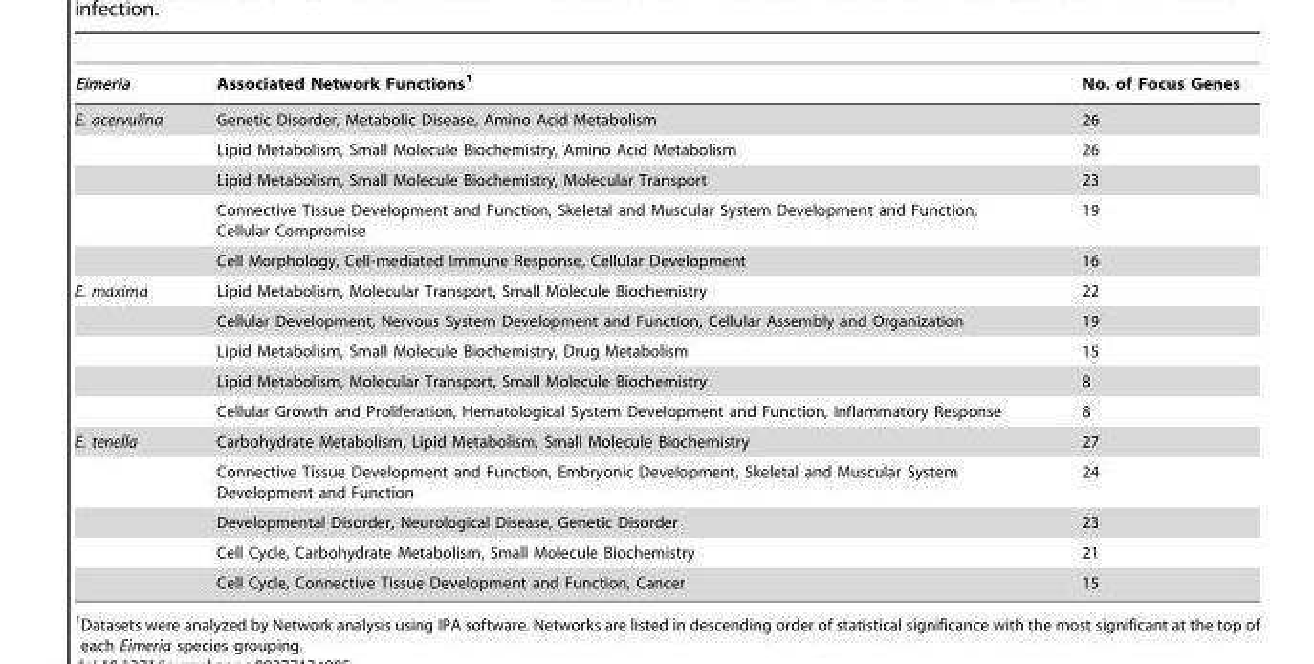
<table><thead><tr><td>Eimeria</td><td>Associated Network Functions<sup>1</sup></td><td>No. of Focus Genes</td></tr></thead><tbody><tr><td rowspan="5">E. acervulina</td><td>Genetic Disorder, Metabolic Disease, Amino Acid Metabolism</td><td>26</td></tr><tr><td>Lipid Metabolism, Small Molecule Biochemistry, Amino Acid Metabolism</td><td>26</td></tr><tr><td>Lipid Metabolism, Small Molecule Biochemistry, Molecular Transport</td><td>23</td></tr><tr><td>Connective Tissue Development and Function, Skeletal and Muscular System Development and Function, Cellular Compromise</td><td>19</td></tr><tr><td>Cell Morphology, Cell-mediated Immune Response, Cellular Development</td><td>16</td></tr><tr><td rowspan="5">E. maxima</td><td>Lipid Metabolism, Molecular Transport, Small Molecule Biochemistry</td><td>22</td></tr><tr><td>Cellular Development, Nervous System Development and Function, Cellular Assembly and Organization</td><td>19</td></tr><tr><td>Lipid Metabolism, Small Molecule Biochemistry, Drug Metabolism</td><td>15</td></tr><tr><td>Lipid Metabolism, Molecular Transport, Small Molecule Biochemistry</td><td>8</td></tr><tr><td>Cellular Growth and Proliferation, Hematological System Development and Function, Inflammatory Response</td><td>8</td></tr><tr><td rowspan="5">E. tenella</td><td>Carbohydrate Metabolism, Lipid Metabolism, Small Molecule Biochemistry</td><td>27</td></tr><tr><td>Connective Tissue Development and Function, Embryonic Development, Skeletal and Muscular System Development and Function</td><td>24</td></tr><tr><td>Developmental Disorder, Neurological Disease, Genetic Disorder</td><td>23</td></tr><tr><td>Cell Cycle, Carbohydrate Metabolism, Small Molecule Biochemistry</td><td>21</td></tr><tr><td>Cell Cycle, Connective Tissue Development and Function, Cancer</td><td>15</td></tr></tbody></table>